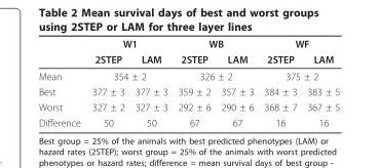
<table><thead><tr><td rowspan="2"></td><td colspan="2">W1</td><td colspan="2">WB</td><td colspan="2">WF</td></tr><tr><td>2STEP</td><td>LAM</td><td>2STEP</td><td>LAM</td><td>2STEP</td><td>LAM</td></tr></thead><tbody><tr><td>Mean</td><td colspan="2">354 ± 2</td><td colspan="2">326 ± 2</td><td colspan="2">375 ± 2</td></tr><tr><td>Best</td><td>377 ± 3</td><td>377 ± 3</td><td>359 ± 2</td><td>357 ± 3</td><td>384 ± 3</td><td>383 ± 5</td></tr><tr><td>Worst</td><td>327 ± 2</td><td>327 ± 3</td><td>292 ± 6</td><td>290 ± 6</td><td>368 ± 7</td><td>367 ± 5</td></tr><tr><td>Difference</td><td>50</td><td>50</td><td>67</td><td>67</td><td>16</td><td>16</td></tr></tbody></table>